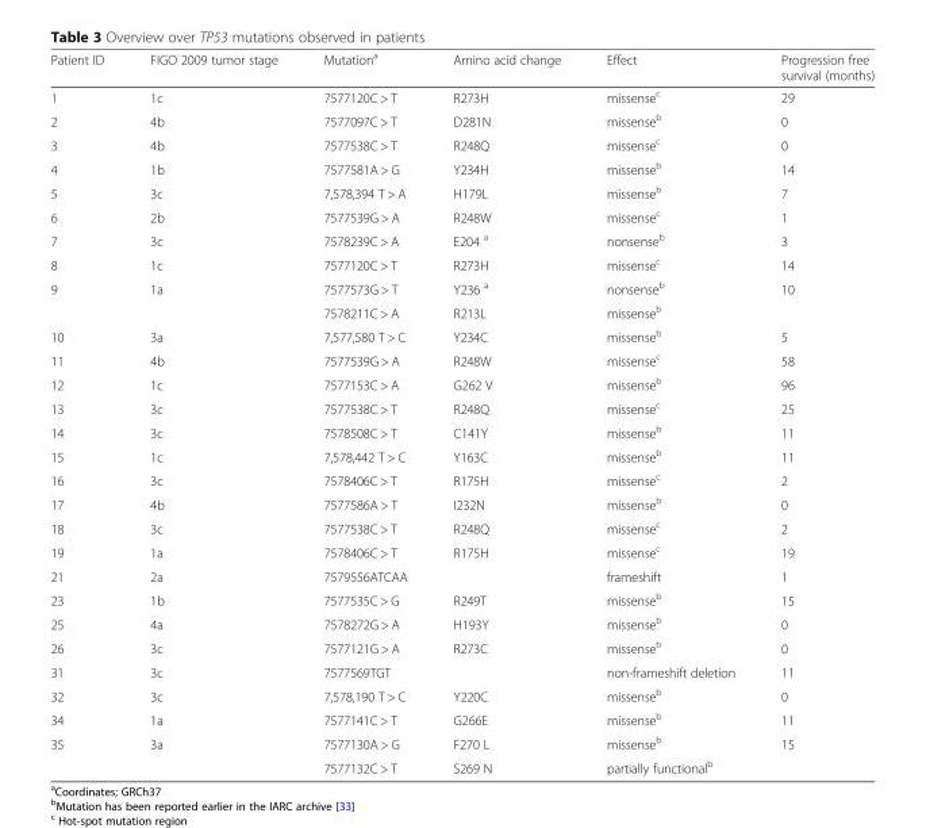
<table><thead><tr><td>Patient ID</td><td>FIGO 2009 tumor stage</td><td>Mutation<sup>a</sup></td><td>Amino acid change</td><td>Effect</td><td>Progression free survival (months)</td></tr></thead><tbody><tr><td>1</td><td>1c</td><td>7577120C &gt; T</td><td>R273H</td><td>missense<sup>c</sup></td><td>29</td></tr><tr><td>2</td><td>4b</td><td>7577097C &gt; T</td><td>D281N</td><td>missense<sup>b</sup></td><td>0</td></tr><tr><td>3</td><td>4b</td><td>7577538C &gt; T</td><td>R248Q</td><td>missense<sup>c</sup></td><td>0</td></tr><tr><td>4</td><td>1b</td><td>7577581A &gt; G</td><td>Y234H</td><td>missense<sup>b</sup></td><td>14</td></tr><tr><td>5</td><td>3c</td><td>7,578,394 T &gt; A</td><td>H179L</td><td>missense<sup>b</sup></td><td>7</td></tr><tr><td>6</td><td>2b</td><td>7577539G &gt; A</td><td>R248W</td><td>missense<sup>c</sup></td><td>1</td></tr><tr><td>7</td><td>3c</td><td>7578239C &gt; A</td><td>E204 <sup>a</sup></td><td>nonsense<sup>b</sup></td><td>3</td></tr><tr><td>8</td><td>1c</td><td>7577120C &gt; T</td><td>R273H</td><td>missense<sup>c</sup></td><td>14</td></tr><tr><td rowspan="2">9</td><td rowspan="2">1a</td><td>7577573G &gt; T</td><td>Y236 <sup>a</sup></td><td>nonsense<sup>b</sup></td><td rowspan="2">10</td></tr><tr><td>7578211C &gt; A</td><td>R213L</td><td>missense<sup>b</sup></td></tr><tr><td>10</td><td>3a</td><td>7,577,580 T &gt; C</td><td>Y234C</td><td>missense<sup>b</sup></td><td>5</td></tr><tr><td>11</td><td>4b</td><td>7577539G &gt; A</td><td>R248W</td><td>missense<sup>c</sup></td><td>58</td></tr><tr><td>12</td><td>1c</td><td>7577153C &gt; A</td><td>G262 V</td><td>missense<sup>b</sup></td><td>96</td></tr><tr><td>13</td><td>3c</td><td>7577538C &gt; T</td><td>R248Q</td><td>missense<sup>c</sup></td><td>25</td></tr><tr><td>14</td><td>3c</td><td>7578508C &gt; T</td><td>C141Y</td><td>missense<sup>b</sup></td><td>11</td></tr><tr><td>15</td><td>1c</td><td>7,578,442 T &gt; C</td><td>Y163C</td><td>missense<sup>b</sup></td><td>11</td></tr><tr><td>16</td><td>3c</td><td>7578406C &gt; T</td><td>R175H</td><td>missense<sup>c</sup></td><td>2</td></tr><tr><td>17</td><td>4b</td><td>7577586A &gt; T</td><td>I232N</td><td>missense<sup>b</sup></td><td>0</td></tr><tr><td>18</td><td>3c</td><td>7577538C &gt; T</td><td>R248Q</td><td>missense<sup>c</sup></td><td>2</td></tr><tr><td>19</td><td>1a</td><td>7578406C &gt; T</td><td>R175H</td><td>missense<sup>c</sup></td><td>19</td></tr><tr><td>21</td><td>2a</td><td>7579556ATCAA</td><td></td><td>frameshift</td><td>1</td></tr><tr><td>23</td><td>1b</td><td>7577535C &gt; G</td><td>R249T</td><td>missense<sup>b</sup></td><td>15</td></tr><tr><td>25</td><td>4a</td><td>7578272G &gt; A</td><td>H193Y</td><td>missense<sup>b</sup></td><td>0</td></tr><tr><td>26</td><td>3c</td><td>7577121G &gt; A</td><td>R273C</td><td>missense<sup>b</sup></td><td>0</td></tr><tr><td>31</td><td>3c</td><td>7577569TGT</td><td></td><td>non-frameshift deletion</td><td>11</td></tr><tr><td>32</td><td>3c</td><td>7,578,190 T &gt; C</td><td>Y220C</td><td>missense<sup>b</sup></td><td>0</td></tr><tr><td>34</td><td>1a</td><td>7577141C &gt; T</td><td>G266E</td><td>missense<sup>b</sup></td><td>11</td></tr><tr><td rowspan="2">35</td><td rowspan="2">3a</td><td>7577130A &gt; G</td><td>F270 L</td><td>missense<sup>b</sup></td><td rowspan="2">15</td></tr><tr><td>7577132C &gt; T</td><td>S269 N</td><td>partially functional<sup>b</sup></td></tr></tbody></table>